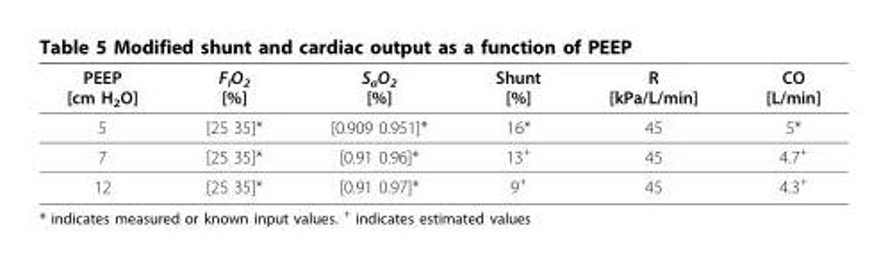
<table><thead><tr><td>PEEP [cm H<sub>2</sub>O]</td><td>F<sub>I</sub>O<sub>2</sub> [%]</td><td>S<sub>a</sub>O<sub>2</sub> [%]</td><td>Shunt [%]</td><td>R [kPa/L/min]</td><td>CO [L/min]</td></tr></thead><tbody><tr><td>5</td><td>[25 35]*</td><td>[0.909 0.951]*</td><td>16*</td><td>45</td><td>5*</td></tr><tr><td>7</td><td>[25 35]*</td><td>[0.91 0.96]*</td><td>13<sup>+</sup></td><td>45</td><td>4.7<sup>+</sup></td></tr><tr><td>12</td><td>[25 35]*</td><td>[0.91 0.97]*</td><td>9<sup>+</sup></td><td>45</td><td>4.3<sup>+</sup></td></tr></tbody></table>